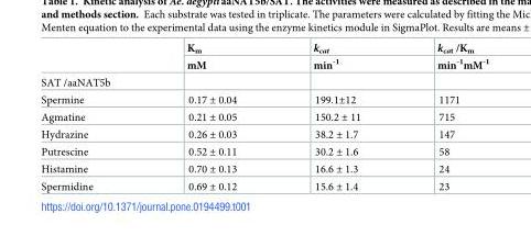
<table><thead><tr><td rowspan="2"></td><td rowspan="2">K<sub>m</sub> mM</td><td rowspan="2">k<sub>cat</sub> min<sup>-1</sup></td><td rowspan="2">k<sub>cat</sub> /K<sub>m</sub> min<sup>-1</sup>mM<sup>-1</sup></td></tr><tr></tr></thead><tbody><tr><td colspan="4">SAT /aaNAT5b</td></tr><tr><td>Spermine</td><td>0.17 ± 0.04</td><td>199.1±12</td><td>1171</td></tr><tr><td>Agmatine</td><td>0.21 ± 0.05</td><td>150.2 ± 11</td><td>715</td></tr><tr><td>Hydrazine</td><td>0.26 ± 0.03</td><td>38.2 ± 1.7</td><td>147</td></tr><tr><td>Putrescine</td><td>0.52 ± 0.11</td><td>30.2 ± 1.6</td><td>58</td></tr><tr><td>Histamine</td><td>0.70 ± 0.13</td><td>16.6 ± 1.3</td><td>24</td></tr><tr><td>Spermidine</td><td>0.69 ± 0.12</td><td>15.6 ± 1.4</td><td>23</td></tr></tbody></table>